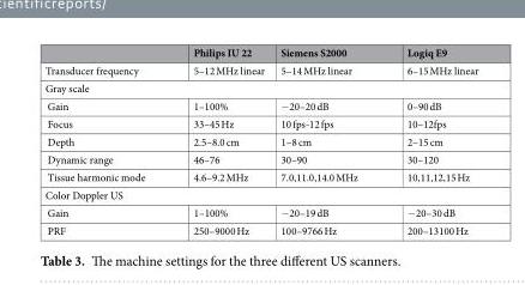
<table><thead><tr><td></td><td>Philips IU 22</td><td>Siemens S2000</td><td>Logiq E9</td></tr></thead><tbody><tr><td>Transducer frequency</td><td>5–12 MHz linear</td><td>5–14 MHz linear</td><td>6–15 MHz linear</td></tr><tr><td colspan="4">Gray scale</td></tr><tr><td>Gain</td><td>1–100%</td><td>−20–20 dB</td><td>0–90 dB</td></tr><tr><td>Focus</td><td>33–45 Hz</td><td>10 fps-12 fps</td><td>10–12fps</td></tr><tr><td>Depth</td><td>2.5–8.0 cm</td><td>1–8 cm</td><td>2–15 cm</td></tr><tr><td>Dynamic range</td><td>46–76</td><td>30–90</td><td>30–120</td></tr><tr><td>Tissue harmonic mode</td><td>4.6–9.2 MHz</td><td>7.0,11.0,14.0 MHz</td><td>10,11,12,15 Hz</td></tr><tr><td colspan="4">Color Doppler US</td></tr><tr><td>Gain</td><td>1–100%</td><td>−20–19 dB</td><td>−20–30 dB</td></tr><tr><td>PRF</td><td>250–9000 Hz</td><td>100–9766 Hz</td><td>200–13100 Hz</td></tr></tbody></table>